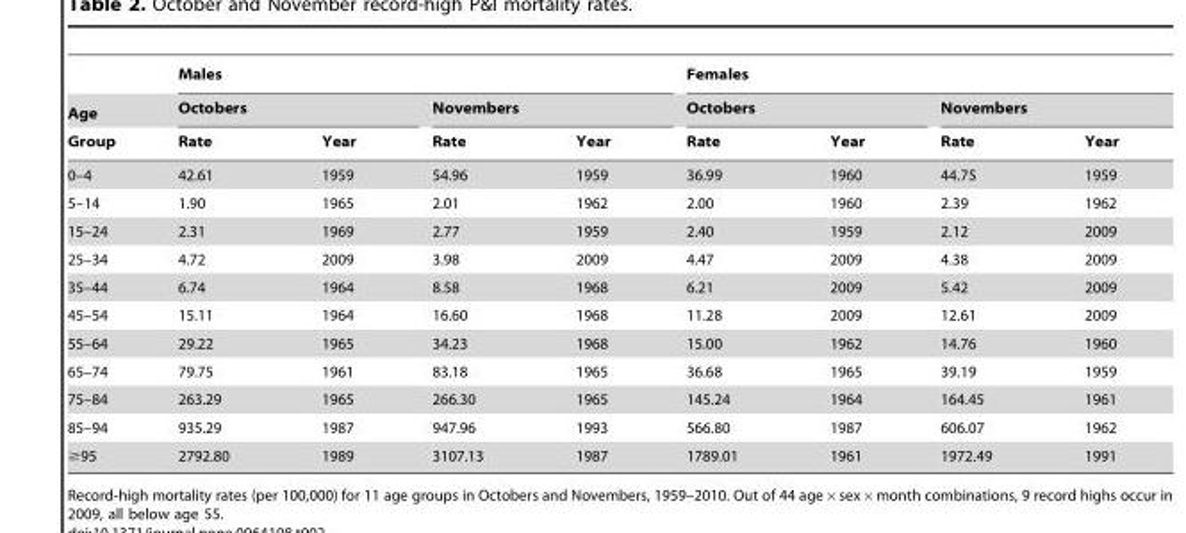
<table><thead><tr><td rowspan="3">Age Group</td><td colspan="4">Males</td><td colspan="4">Females</td></tr><tr><td colspan="2">Octobers</td><td colspan="2">Novembers</td><td colspan="2">Octobers</td><td colspan="2">Novembers</td></tr><tr><td>Rate</td><td>Year</td><td>Rate</td><td>Year</td><td>Rate</td><td>Year</td><td>Rate</td><td>Year</td></tr></thead><tbody><tr><td>0–4</td><td>42.61</td><td>1959</td><td>54.96</td><td>1959</td><td>36.99</td><td>1960</td><td>44.75</td><td>1959</td></tr><tr><td>5–14</td><td>1.90</td><td>1965</td><td>2.01</td><td>1962</td><td>2.00</td><td>1960</td><td>2.39</td><td>1962</td></tr><tr><td>15–24</td><td>2.31</td><td>1969</td><td>2.77</td><td>1959</td><td>2.40</td><td>1959</td><td>2.12</td><td>2009</td></tr><tr><td>25–34</td><td>4.72</td><td>2009</td><td>3.98</td><td>2009</td><td>4.47</td><td>2009</td><td>4.38</td><td>2009</td></tr><tr><td>35–44</td><td>6.74</td><td>1964</td><td>8.58</td><td>1968</td><td>6.21</td><td>2009</td><td>5.42</td><td>2009</td></tr><tr><td>45–54</td><td>15.11</td><td>1964</td><td>16.60</td><td>1968</td><td>11.28</td><td>2009</td><td>12.61</td><td>2009</td></tr><tr><td>55–64</td><td>29.22</td><td>1965</td><td>34.23</td><td>1968</td><td>15.00</td><td>1962</td><td>14.76</td><td>1960</td></tr><tr><td>65–74</td><td>79.75</td><td>1961</td><td>83.18</td><td>1965</td><td>36.68</td><td>1965</td><td>39.19</td><td>1959</td></tr><tr><td>75–84</td><td>263.29</td><td>1965</td><td>266.30</td><td>1965</td><td>145.24</td><td>1964</td><td>164.45</td><td>1961</td></tr><tr><td>85–94</td><td>935.29</td><td>1987</td><td>947.96</td><td>1993</td><td>566.80</td><td>1987</td><td>606.07</td><td>1962</td></tr><tr><td>≥95</td><td>2792.80</td><td>1989</td><td>3107.13</td><td>1987</td><td>1789.01</td><td>1961</td><td>1972.49</td><td>1991</td></tr></tbody></table>